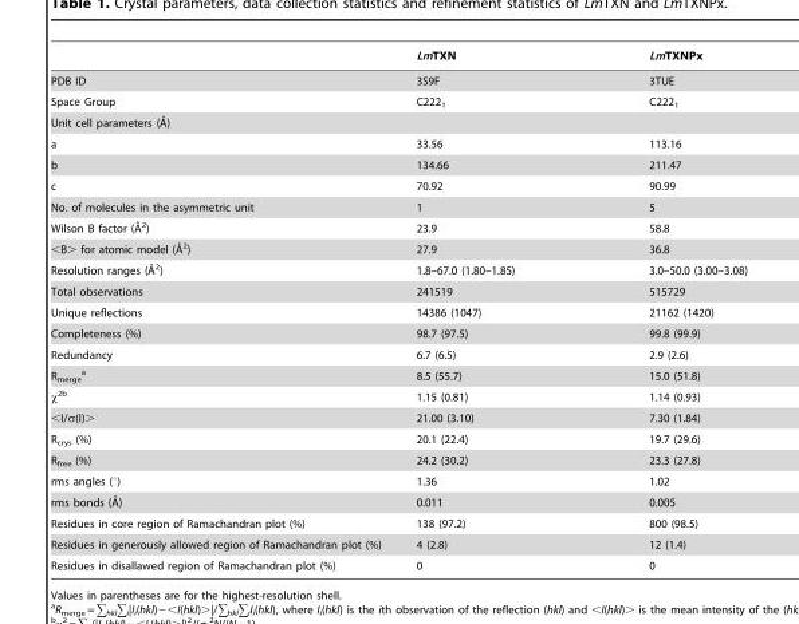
<table><thead><tr><td></td><td>LmTXN</td><td>LmTXNPx</td></tr></thead><tbody><tr><td>PDB ID</td><td>3S9F</td><td>3TUE</td></tr><tr><td>Space Group</td><td>C222<sub>1</sub></td><td>C222<sub>1</sub></td></tr><tr><td colspan="3">Unit cell parameters (A˚)</td></tr><tr><td>a</td><td>33.56</td><td>113.16</td></tr><tr><td>b</td><td>134.66</td><td>211.47</td></tr><tr><td>c</td><td>70.92</td><td>90.99</td></tr><tr><td>No. of molecules in the asymmetric unit</td><td>1</td><td>5</td></tr><tr><td>Wilson B factor (A˚2)</td><td>23.9</td><td>58.8</td></tr><tr><td>,B. for atomic model (A˚ 2)</td><td>27.9</td><td>36.8</td></tr><tr><td>Resolution ranges (A˚2)</td><td>1.8–67.0 (1.80–1.85)</td><td>3.0–50.0 (3.00–3.08)</td></tr><tr><td>Total observations</td><td>241519</td><td>515729</td></tr><tr><td>Unique reflections</td><td>14386 (1047)</td><td>21162 (1420)</td></tr><tr><td>Completeness (%)</td><td>98.7 (97.5)</td><td>99.8 (99.9)</td></tr><tr><td>Redundancy</td><td>6.7 (6.5)</td><td>2.9 (2.6)</td></tr><tr><td>R<sub>merge</sub> a</td><td>8.5 (55.7)</td><td>15.0 (51.8)</td></tr><tr><td>χ<sup>2</sup>b</td><td>1.15 (0.81)</td><td>1.14 (0.93)</td></tr><tr><td>&lt;I/σ(I)&gt;</td><td>21.00 (3.10)</td><td>7.30 (1.84)</td></tr><tr><td>R<sub>crys</sub> (%)</td><td>20.1 (22.4)</td><td>19.7 (29.6)</td></tr><tr><td>R<sub>free</sub> (%)</td><td>24.2 (30.2)</td><td>23.3 (27.8)</td></tr><tr><td>rms angles (°)</td><td>1.36</td><td>1.02</td></tr><tr><td>rms bonds (A˚)</td><td>0.011</td><td>0.005</td></tr><tr><td>Residues in core region of Ramachandran plot (%)</td><td>138 (97.2)</td><td>800 (98.5)</td></tr><tr><td>Residues in generously allowed region of Ramachandran plot (%)</td><td>4 (2.8)</td><td>12 (1.4)</td></tr><tr><td>Residues in disallawed region of Ramachandran plot (%)</td><td>0</td><td>0</td></tr></tbody></table>